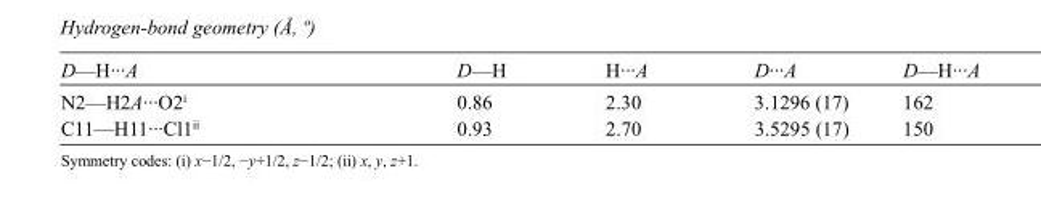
<table><tbody><tr><td>D—H···A</td><td>D—H</td><td>H···A</td><td>D···A</td><td>D—H···A</td></tr><tr><td>N2—H2A···O2<sup>i</sup></td><td>0.86</td><td>2.30</td><td>3.1296 (17)</td><td>162</td></tr><tr><td>C11—H11···Cl1<sup>ii</sup></td><td>0.93</td><td>2.70</td><td>3.5295 (17)</td><td>150</td></tr></tbody></table>